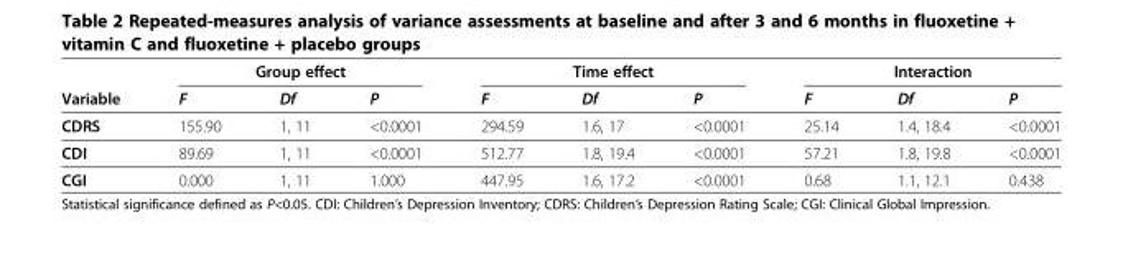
<table><thead><tr><td rowspan="2">Variable</td><td colspan="3">Group effect</td><td colspan="3">Time effect</td><td colspan="3">Interaction</td></tr><tr><td>F</td><td>Df</td><td>P</td><td>F</td><td>Df</td><td>P</td><td>F</td><td>Df</td><td>P</td></tr></thead><tbody><tr><td>CDRS</td><td>155.90</td><td>1, 11</td><td>&lt;0.0001</td><td>294.59</td><td>1.6, 17</td><td>&lt;0.0001</td><td>25.14</td><td>1.4, 18.4</td><td>&lt;0.0001</td></tr><tr><td>CDI</td><td>89.69</td><td>1, 11</td><td>&lt;0.0001</td><td>512.77</td><td>1.8, 19.4</td><td>&lt;0.0001</td><td>57.21</td><td>1.8, 19.8</td><td>&lt;0.0001</td></tr><tr><td>CGI</td><td>0.000</td><td>1, 11</td><td>1.000</td><td>447.95</td><td>1.6, 17.2</td><td>&lt;0.0001</td><td>0.68</td><td>1.1, 12.1</td><td>0.438</td></tr></tbody></table>